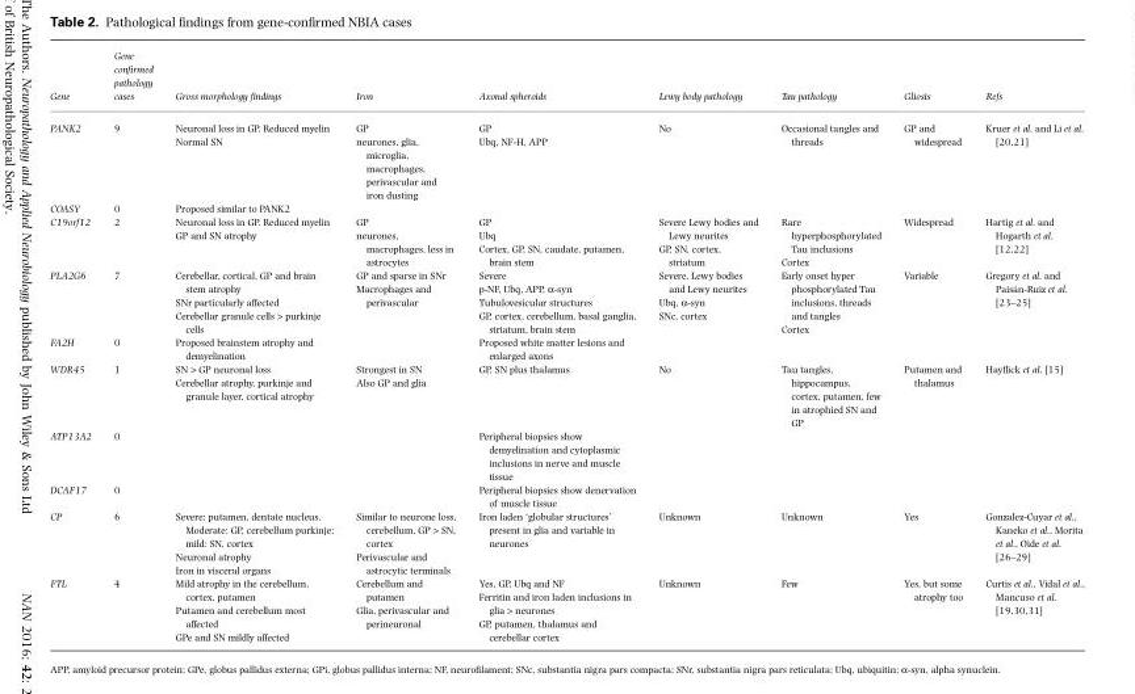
<table><thead><tr><td>Gene</td><td>Gene confirmed pathology cases</td><td>Gross morphology findings</td><td>Iron</td><td>Axonal spheroids</td><td>Lewy body pathology</td><td>Tau pathology</td><td>Gliosis</td><td>Refs</td></tr></thead><tbody><tr><td>PANK2</td><td>9</td><td>Neuronal loss in GP. Reduced myelin Normal SN</td><td>GP neurones, glia, microglia, macrophages, perivascular and iron dusting</td><td>GP Ubq, NF-H, APP</td><td>No</td><td>Occasional tangles and threads</td><td>GP and widespread</td><td>Kruer et al. and Li et al. [20,21]</td></tr><tr><td>COASY</td><td>0</td><td>Proposed similar to PANK2</td><td></td><td></td><td></td><td></td><td></td><td></td></tr><tr><td>C19orf12</td><td>2</td><td>Neuronal loss in GP. Reduced myelin GP and SN atrophy</td><td>GP neurones, macrophages, less in astrocytes</td><td>GP Ubq Cortex, GP, SN, caudate, putamen, brain stem</td><td>Severe Lewy bodies and Lewy neurites GP, SN, cortex, striatum</td><td>Rare hyperphosphorylated Tau inclusions Cortex</td><td>Widespread</td><td>Hartig et al. and Hogarth et al. [12,22]</td></tr><tr><td>PLA2G6</td><td>7</td><td>Cerebellar, cortical, GP and brain stem atrophy SNr particularly affected Cerebellar granule cells &gt; purkinje cells</td><td>GP and sparse in SNr Macrophages and perivascular</td><td>Severe p-NF, Ubq, APP, α-syn Tubulovesicular structures GP, cortex, cerebellum, basal ganglia, striatum, brain stem</td><td>Severe, Lewy bodies and Lewy neurites Ubq, α-syn SNc, cortex</td><td>Early onset hyper phosphorylated Tau inclusions, threads and tangles Cortex</td><td>Variable</td><td>Gregory et al. and Paisán-Ruiz et al. [23–25]</td></tr><tr><td>FA2H</td><td>0</td><td>Proposed brainstem atrophy and demyelination</td><td></td><td>Proposed white matter lesions and enlarged axons</td><td></td><td></td><td></td><td></td></tr><tr><td>WDR45</td><td>1</td><td>SN &gt; GP neuronal loss Cerebellar atrophy, purkinje and granule layer, cortical atrophy</td><td>Strongest in SN Also GP and glia</td><td>GP, SN plus thalamus</td><td>No</td><td>Tau tangles, hippocampus, cortex, putamen, few in atrophied SN and GP</td><td>Putamen and thalamus</td><td>Hayflick et al. [15]</td></tr><tr><td>ATP13A2</td><td>0</td><td></td><td></td><td>Peripheral biopsies show demyelination and cytoplasmic inclusions in nerve and muscle tissue</td><td></td><td></td><td></td><td></td></tr><tr><td>DCAF17</td><td>0</td><td></td><td></td><td>Peripheral biopsies show denervation of muscle tissue</td><td></td><td></td><td></td><td></td></tr><tr><td>CP</td><td>6</td><td>Severe: putamen, dentate nucleus. Moderate: GP, cerebellum purkinje; mild: SN, cortex Neuronal atrophy Iron in visceral organs</td><td>Similar to neurone loss, cerebellum, GP &gt; SN, cortex Perivascular and astrocytic terminals</td><td>Iron laden ‘globular structures’ present in glia and variable in neurones</td><td>Unknown</td><td>Unknown</td><td>Yes</td><td>Gonzalez-Cuyar et al., Kaneko et al., Morita et al., Oide et al. [26–29]</td></tr><tr><td>FTL</td><td>4</td><td>Mild atrophy in the cerebellum, cortex, putamen Putamen and cerebellum most affected GPe and SN mildly affected</td><td>Cerebellum and putamen Glia, perivascular and perineuronal</td><td>Yes, GP, Ubq and NF Ferritin and iron laden inclusions in glia &gt; neurones GP, putamen, thalamus and cerebellar cortex</td><td>Unknown</td><td>Few</td><td>Yes, but some atrophy too</td><td>Curtis et al., Vidal et al., Mancuso et al. [19,30,31]</td></tr></tbody></table>